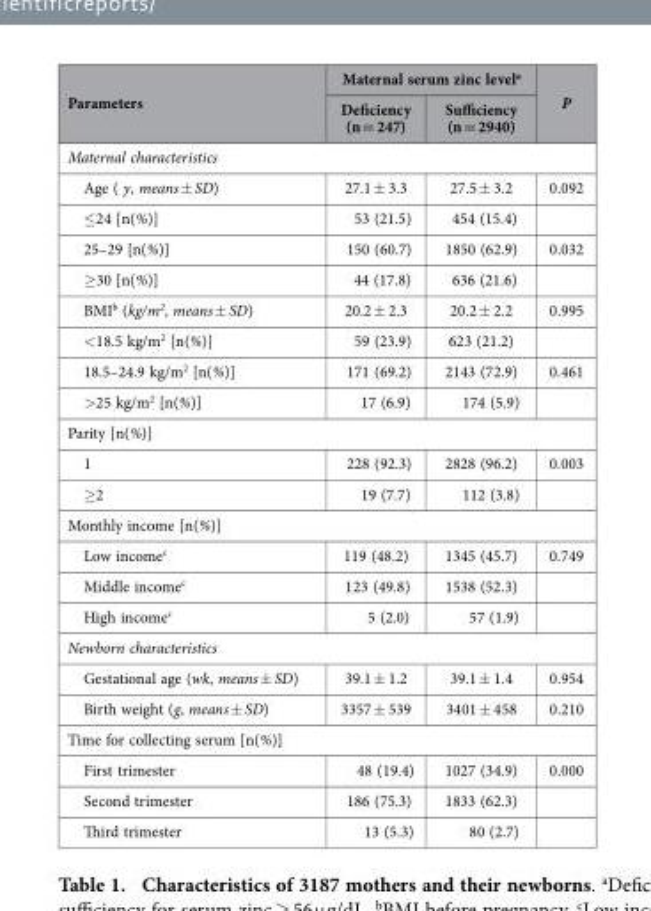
<table><thead><tr><td rowspan="2">Parameters</td><td colspan="2">Maternal serum zinc level<sup>a</sup></td><td rowspan="2">P</td></tr><tr><td>Deficiency (n = 247)</td><td>Sufficiency (n = 2940)</td></tr></thead><tbody><tr><td colspan="4">Maternal characteristics</td></tr><tr><td>Age ( y, means ± SD)</td><td>27.1 ± 3.3</td><td>27.5 ± 3.2</td><td>0.092</td></tr><tr><td>≤24 [n(%)]</td><td>53 (21.5)</td><td>454 (15.4)</td><td></td></tr><tr><td>25–29 [n(%)]</td><td>150 (60.7)</td><td>1850 (62.9)</td><td>0.032</td></tr><tr><td>≥30 [n(%)]</td><td>44 (17.8)</td><td>636 (21.6)</td><td></td></tr><tr><td>BMI<sup>b</sup> (kg/m<sup>2</sup>, means ± SD)</td><td>20.2 ± 2.3</td><td>20.2 ± 2.2</td><td>0.995</td></tr><tr><td>&lt;18.5 kg/m<sup>2</sup> [n(%)]</td><td>59 (23.9)</td><td>623 (21.2)</td><td></td></tr><tr><td>18.5–24.9 kg/m<sup>2</sup> [n(%)]</td><td>171 (69.2)</td><td>2143 (72.9)</td><td>0.461</td></tr><tr><td>&gt;25 kg/m<sup>2</sup> [n(%)]</td><td>17 (6.9)</td><td>174 (5.9)</td><td></td></tr><tr><td colspan="4">Parity [n(%)]</td></tr><tr><td>1</td><td>228 (92.3)</td><td>2828 (96.2)</td><td>0.003</td></tr><tr><td>≥2</td><td>19 (7.7)</td><td>112 (3.8)</td><td></td></tr><tr><td colspan="4">Monthly income [n(%)]</td></tr><tr><td>Low income<sup>c</sup></td><td>119 (48.2)</td><td>1345 (45.7)</td><td>0.749</td></tr><tr><td>Middle income<sup>c</sup></td><td>123 (49.8)</td><td>1538 (52.3)</td><td></td></tr><tr><td>High income<sup>c</sup></td><td>5 (2.0)</td><td>57 (1.9)</td><td></td></tr><tr><td colspan="4">Newborn characteristics</td></tr><tr><td>Gestational age (wk, means ± SD)</td><td>39.1 ± 1.2</td><td>39.1 ± 1.4</td><td>0.954</td></tr><tr><td>Birth weight (g, means ± SD)</td><td>3357 ± 539</td><td>3401 ± 458</td><td>0.210</td></tr><tr><td colspan="4">Time for collecting serum [n(%)]</td></tr><tr><td>First trimester</td><td>48 (19.4)</td><td>1027 (34.9)</td><td>0.000</td></tr><tr><td>Second trimester</td><td>186 (75.3)</td><td>1833 (62.3)</td><td></td></tr><tr><td>Third trimester</td><td>13 (5.3)</td><td>80 (2.7)</td><td></td></tr></tbody></table>